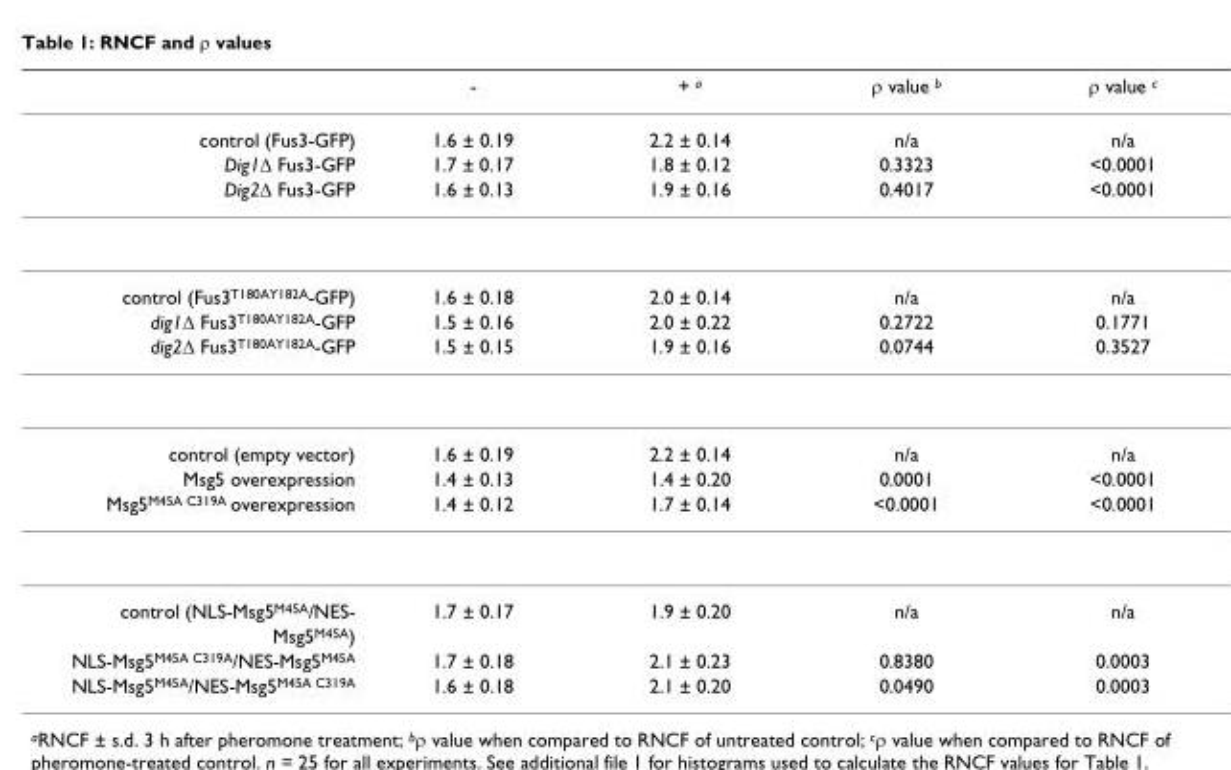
<table><thead><tr><td></td><td>-</td><td>+ a</td><td>ρ value b</td><td>ρ value c</td></tr></thead><tbody><tr><td>control (Fus3-GFP)</td><td>1.6 ± 0.19</td><td>2.2 ± 0.14</td><td>n/a</td><td>n/a</td></tr><tr><td>Dig1Δ Fus3-GFP</td><td>1.7 ± 0.17</td><td>1.8 ± 0.12</td><td>0.3323</td><td>&lt;0.0001</td></tr><tr><td>Dig2Δ Fus3-GFP</td><td>1.6 ± 0.13</td><td>1.9 ± 0.16</td><td>0.4017</td><td>&lt;0.0001</td></tr><tr><td>control (Fus3T180AY182A-GFP)</td><td>1.6 ± 0.18</td><td>2.0 ± 0.14</td><td>n/a</td><td>n/a</td></tr><tr><td>dig1Δ Fus3T180AY182A-GFP</td><td>1.5 ± 0.16</td><td>2.0 ± 0.22</td><td>0.2722</td><td>0.1771</td></tr><tr><td>dig2Δ Fus3T180AY182A-GFP</td><td>1.5 ± 0.15</td><td>1.9 ± 0.16</td><td>0.0744</td><td>0.3527</td></tr><tr><td>control (empty vector)</td><td>1.6 ± 0.19</td><td>2.2 ± 0.14</td><td>n/a</td><td>n/a</td></tr><tr><td>Msg5 overexpression</td><td>1.4 ± 0.13</td><td>1.4 ± 0.20</td><td>0.0001</td><td>&lt;0.0001</td></tr><tr><td>Msg5M45A C319A overexpression</td><td>1.4 ± 0.12</td><td>1.7 ± 0.14</td><td>&lt;0.0001</td><td>&lt;0.0001</td></tr><tr><td>control (NLS-Msg5M45A/NES-</td><td>1.7 ± 0.17</td><td>1.9 ± 0.20</td><td>n/a</td><td>n/a</td></tr><tr><td colspan="5">Msg5M45A)</td></tr><tr><td>NLS-Msg5M45A C319A/NES-Msg5M45A</td><td>1.7 ± 0.18</td><td>2.1 ± 0.23</td><td>0.8380</td><td>0.0003</td></tr><tr><td>NLS-Msg5M45A/NES-Msg5M45A C319A</td><td>1.6 ± 0.18</td><td>2.1 ± 0.20</td><td>0.0490</td><td>0.0003</td></tr></tbody></table>